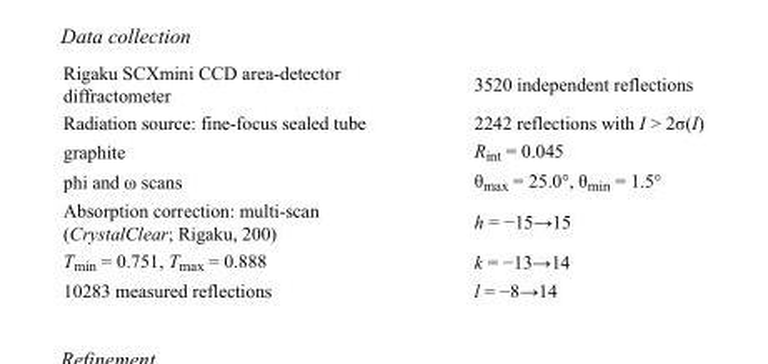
<table><tbody><tr><td>Rigaku SCXmini CCD area-detector diffractometer</td><td>3520 independent reflections</td></tr><tr><td>Radiation source: fine-focus sealed tube</td><td>2242 reflections with I &gt; 2σ(I)</td></tr><tr><td>graphite</td><td>R<sub>int</sub> = 0.045</td></tr><tr><td>phi and ω scans</td><td>θ<sub>max</sub> = 25.0°, θ<sub>min</sub> = 1.5°</td></tr><tr><td>Absorption correction: multi-scan (CrystalClear; Rigaku, 200)</td><td>h = −15→15</td></tr><tr><td>T<sub>min</sub> = 0.751, T<sub>max</sub> = 0.888</td><td>k = −13→14</td></tr><tr><td>10283 measured reflections</td><td>l = −8→14</td></tr></tbody></table>